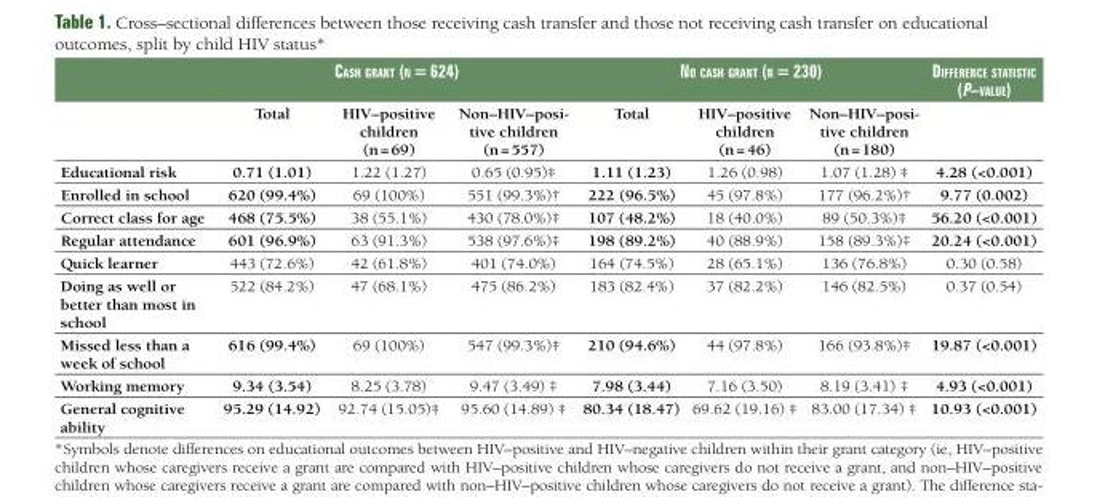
<table><thead><tr><td rowspan="2"></td><td colspan="3">Cash grant (n = 624)</td><td colspan="3">no Cash grant (n = 230)</td><td rowspan="2">DifferenCe statistiC (P–value)</td></tr><tr><td>Total</td><td>HIV–positive children (n = 69)</td><td>Non–HIV–posi- tive children (n = 557)</td><td>Total</td><td>HIV–positive children (n = 46)</td><td>Non–HIV–posi- tive children (n = 180)</td></tr></thead><tbody><tr><td>Educational risk</td><td>0.71 (1.01)</td><td>1.22 (1.27)</td><td>0.65 (0.95)‡</td><td>1.11 (1.23)</td><td>1.26 (0.98)</td><td>1.07 (1.28) ‡</td><td>4.28 (&lt;0.001)</td></tr><tr><td>Enrolled in school</td><td>620 (99.4%)</td><td>69 (100%)</td><td>551 (99.3%)†</td><td>222 (96.5%)</td><td>45 (97.8%)</td><td>177 (96.2%)†</td><td>9.77 (0.002)</td></tr><tr><td>Correct class for age</td><td>468 (75.5%)</td><td>38 (55.1%)</td><td>430 (78.0%)‡</td><td>107 (48.2%)</td><td>18 (40.0%)</td><td>89 (50.3%)‡</td><td>56.20 (&lt;0.001)</td></tr><tr><td>Regular attendance</td><td>601 (96.9%)</td><td>63 (91.3%)</td><td>538 (97.6%)‡</td><td>198 (89.2%)</td><td>40 (88.9%)</td><td>158 (89.3%)‡</td><td>20.24 (&lt;0.001)</td></tr><tr><td>Quick learner</td><td>443 (72.6%)</td><td>42 (61.8%)</td><td>401 (74.0%)</td><td>164 (74.5%)</td><td>28 (65.1%)</td><td>136 (76.8%)</td><td>0.30 (0.58)</td></tr><tr><td>Doing as well or better than most in school</td><td>522 (84.2%)</td><td>47 (68.1%)</td><td>475 (86.2%)</td><td>183 (82.4%)</td><td>37 (82.2%)</td><td>146 (82.5%)</td><td>0.37 (0.54)</td></tr><tr><td>Missed less than a week of school</td><td>616 (99.4%)</td><td>69 (100%)</td><td>547 (99.3%)‡</td><td>210 (94.6%)</td><td>44 (97.8%)</td><td>166 (93.8%)‡</td><td>19.87 (&lt;0.001)</td></tr><tr><td>Working memory</td><td>9.34 (3.54)</td><td>8.25 (3.78)</td><td>9.47 (3.49) ‡</td><td>7.98 (3.44)</td><td>7.16 (3.50)</td><td>8.19 (3.41) ‡</td><td>4.93 (&lt;0.001)</td></tr><tr><td>General cognitive ability</td><td>95.29 (14.92)</td><td>92.74 (15.05)‡</td><td>95.60 (14.89) ‡</td><td>80.34 (18.47)</td><td>69.62 (19.16) ‡</td><td>83.00 (17.34) ‡</td><td>10.93 (&lt;0.001)</td></tr></tbody></table>